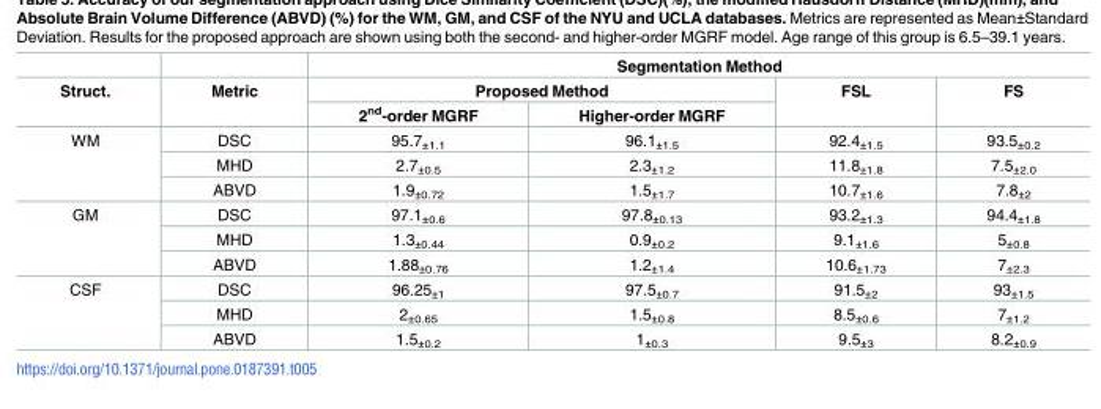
<table><thead><tr><td rowspan="3">Struct.</td><td rowspan="3">Metric</td><td colspan="4">Segmentation Method</td></tr><tr><td colspan="2">Proposed Method</td><td rowspan="2">FSL</td><td rowspan="2">FS</td></tr><tr><td>2<sup>nd</sup>-order MGRF</td><td>Higher-order MGRF</td></tr></thead><tbody><tr><td rowspan="3">WM</td><td>DSC</td><td>95.7<sub>±1.1</sub></td><td>96.1<sub>±1.5</sub></td><td>92.4<sub>±1.5</sub></td><td>93.5<sub>±0.2</sub></td></tr><tr><td>MHD</td><td>2.7<sub>±0.5</sub></td><td>2.3<sub>±1.2</sub></td><td>11.8<sub>±1.8</sub></td><td>7.5<sub>±2.0</sub></td></tr><tr><td>ABVD</td><td>1.9<sub>±0.72</sub></td><td>1.5<sub>±1.7</sub></td><td>10.7<sub>±1.6</sub></td><td>7.8<sub>±2</sub></td></tr><tr><td rowspan="3">GM</td><td>DSC</td><td>97.1<sub>±0.6</sub></td><td>97.8<sub>±0.13</sub></td><td>93.2<sub>±1.3</sub></td><td>94.4<sub>±1.8</sub></td></tr><tr><td>MHD</td><td>1.3<sub>±0.44</sub></td><td>0.9<sub>±0.2</sub></td><td>9.1<sub>±1.6</sub></td><td>5<sub>±0.8</sub></td></tr><tr><td>ABVD</td><td>1.88<sub>±0.76</sub></td><td>1.2<sub>±1.4</sub></td><td>10.6<sub>±1.73</sub></td><td>7<sub>±2.3</sub></td></tr><tr><td rowspan="3">CSF</td><td>DSC</td><td>96.25<sub>±1</sub></td><td>97.5<sub>±0.7</sub></td><td>91.5<sub>±2</sub></td><td>93<sub>±1.5</sub></td></tr><tr><td>MHD</td><td>2<sub>±0.65</sub></td><td>1.5<sub>±0.8</sub></td><td>8.5<sub>±0.6</sub></td><td>7<sub>±1.2</sub></td></tr><tr><td>ABVD</td><td>1.5<sub>±0.2</sub></td><td>1<sub>±0.3</sub></td><td>9.5<sub>±3</sub></td><td>8.2<sub>±0.9</sub></td></tr></tbody></table>